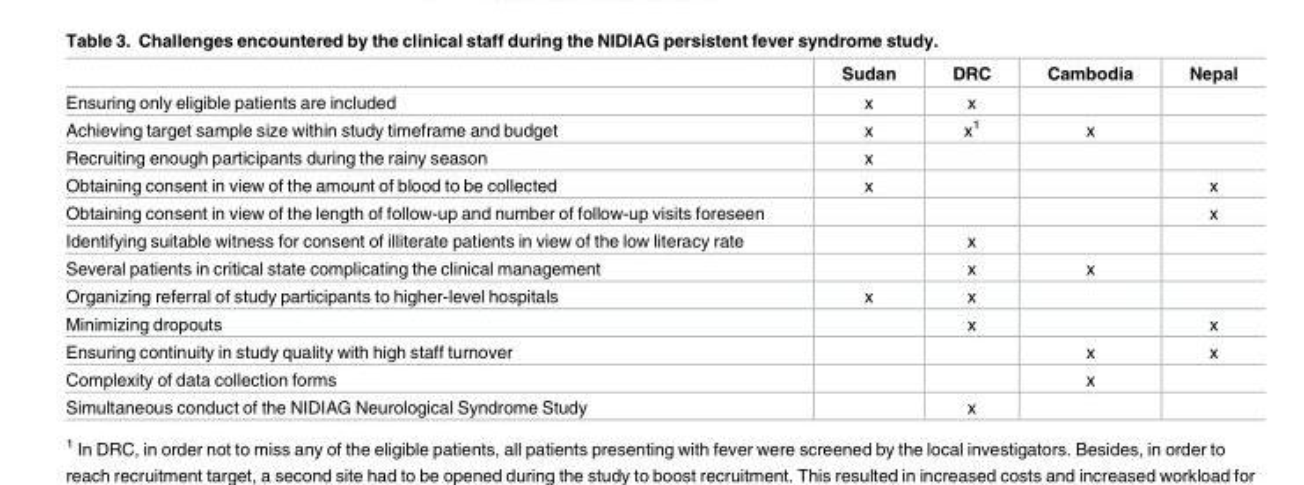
<table><thead><tr><td></td><td>Sudan</td><td>DRC</td><td>Cambodia</td><td>Nepal</td></tr></thead><tbody><tr><td>Ensuring only eligible patients are included</td><td>x</td><td>x</td><td></td><td></td></tr><tr><td>Achieving target sample size within study timeframe and budget</td><td>x</td><td>x<sup>1</sup></td><td>x</td><td></td></tr><tr><td>Recruiting enough participants during the rainy season</td><td>x</td><td></td><td></td><td></td></tr><tr><td>Obtaining consent in view of the amount of blood to be collected</td><td>x</td><td></td><td></td><td>x</td></tr><tr><td>Obtaining consent in view of the length of follow-up and number of follow-up visits foreseen</td><td></td><td></td><td></td><td>x</td></tr><tr><td>Identifying suitable witness for consent of illiterate patients in view of the low literacy rate</td><td></td><td>x</td><td></td><td></td></tr><tr><td>Several patients in critical state complicating the clinical management</td><td></td><td>x</td><td>x</td><td></td></tr><tr><td>Organizing referral of study participants to higher-level hospitals</td><td>x</td><td>x</td><td></td><td></td></tr><tr><td>Minimizing dropouts</td><td></td><td>x</td><td></td><td>x</td></tr><tr><td>Ensuring continuity in study quality with high staff turnover</td><td></td><td></td><td>x</td><td>x</td></tr><tr><td>Complexity of data collection forms</td><td></td><td></td><td>x</td><td></td></tr><tr><td>Simultaneous conduct of the NIDIAG Neurological Syndrome Study</td><td></td><td>x</td><td></td><td></td></tr></tbody></table>